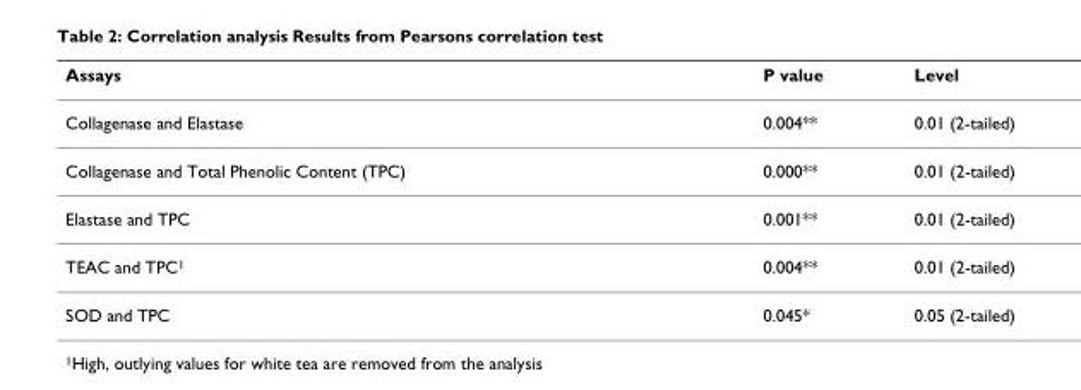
<table><thead><tr><td>Assays</td><td>P value</td><td>Level</td></tr></thead><tbody><tr><td>Collagenase and Elastase</td><td>0.004**</td><td>0.01 (2-tailed)</td></tr><tr><td>Collagenase and Total Phenolic Content (TPC)</td><td>0.000**</td><td>0.01 (2-tailed)</td></tr><tr><td>Elastase and TPC</td><td>0.001**</td><td>0.01 (2-tailed)</td></tr><tr><td>TEAC and TPC<sup>1</sup></td><td>0.004**</td><td>0.01 (2-tailed)</td></tr><tr><td>SOD and TPC</td><td>0.045*</td><td>0.05 (2-tailed)</td></tr></tbody></table>